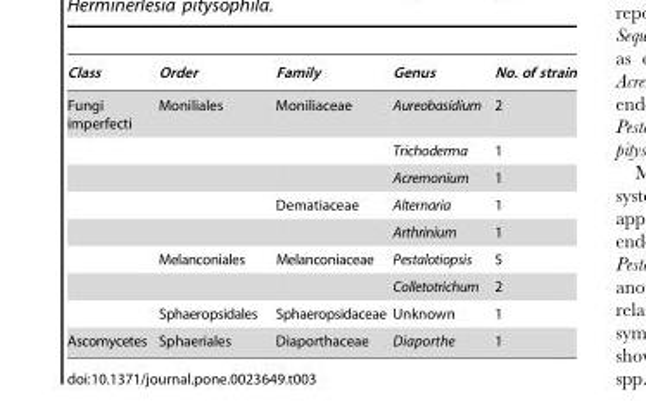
<table><thead><tr><td>Class</td><td>Order</td><td>Family</td><td>Genus</td><td>No. of strain</td></tr></thead><tbody><tr><td rowspan="8">Fungi imperfecti</td><td>Moniliales</td><td>Moniliaceae</td><td>Aureobasidium</td><td>2</td></tr><tr><td></td><td></td><td>Trichoderma</td><td>1</td></tr><tr><td></td><td></td><td>Acremonium</td><td>1</td></tr><tr><td></td><td>Dematiaceae</td><td>Alternaria</td><td>1</td></tr><tr><td></td><td></td><td>Arthrinium</td><td>1</td></tr><tr><td>Melanconiales</td><td>Melanconiaceae</td><td>Pestalotiopsis</td><td>5</td></tr><tr><td></td><td></td><td>Colletotrichum</td><td>2</td></tr><tr><td>Sphaeropsidales</td><td>Sphaeropsidaceae</td><td>Unknown</td><td>1</td></tr><tr><td>Ascomycetes</td><td>Sphaeriales</td><td>Diaporthaceae</td><td>Diaporthe</td><td>1</td></tr></tbody></table>